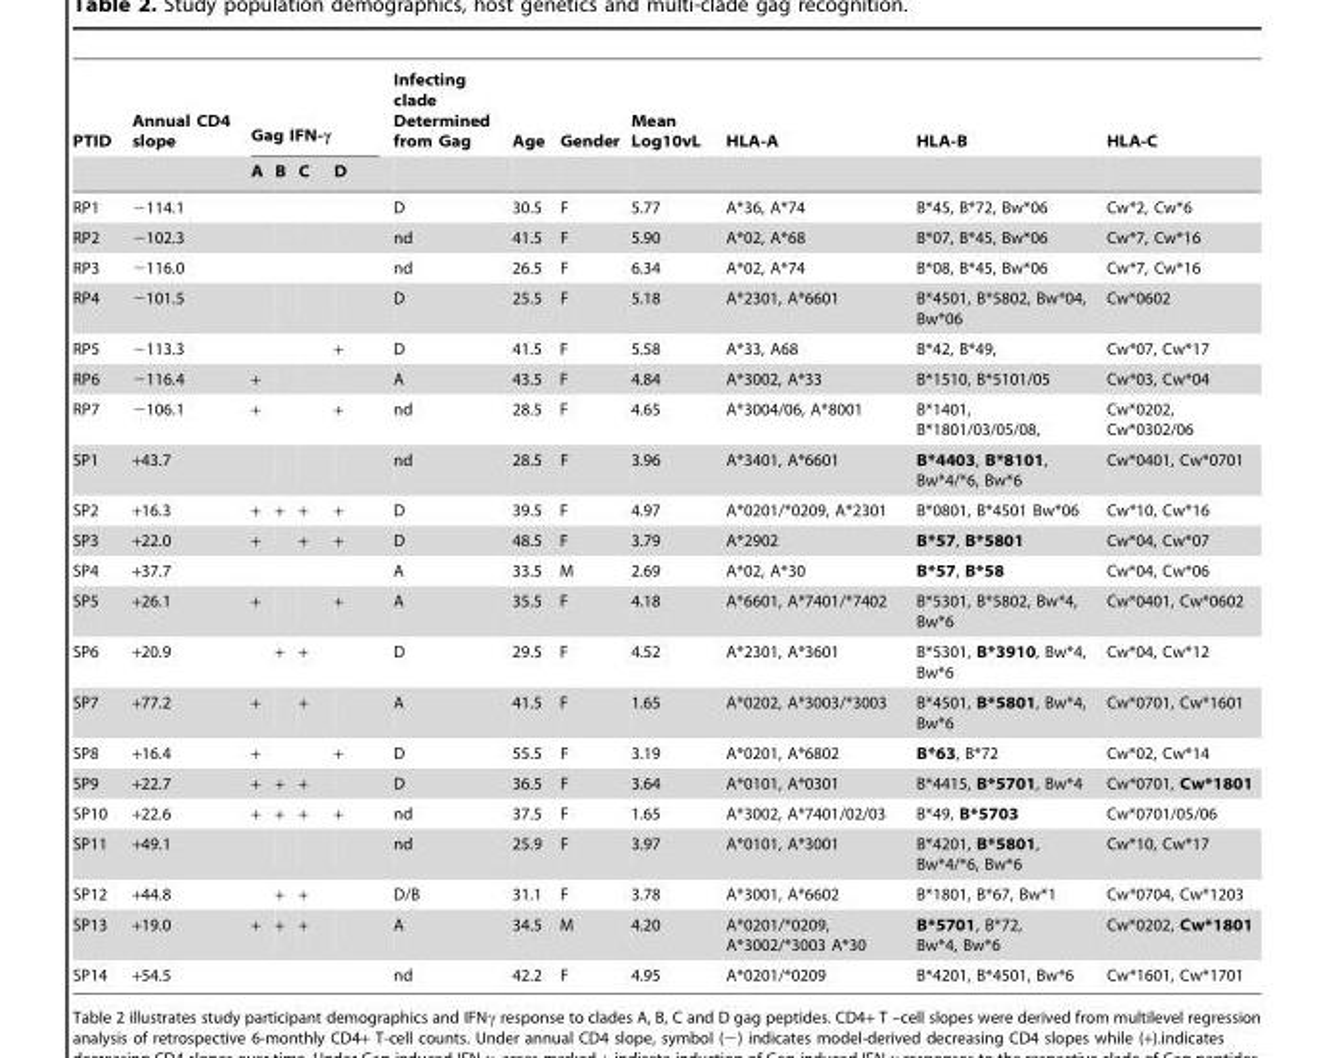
<table><thead><tr><td rowspan="2">PTID</td><td rowspan="2">Annual CD4 slope</td><td colspan="4">Gag IFN-γ</td><td rowspan="2">Infecting clade Determined from Gag</td><td rowspan="2">Age</td><td rowspan="2">Gender</td><td rowspan="2">Mean Log10vL</td><td rowspan="2">HLA-A</td><td rowspan="2">HLA-B</td><td rowspan="2">HLA-C</td></tr><tr><td>A</td><td>B</td><td>C</td><td>D</td></tr></thead><tbody><tr><td>RP1</td><td>−114.1</td><td></td><td></td><td></td><td></td><td>D</td><td>30.5</td><td>F</td><td>5.77</td><td>A*36, A*74</td><td>B*45, B*72, Bw*06</td><td>Cw*2, Cw*6</td></tr><tr><td>RP2</td><td>−102.3</td><td></td><td></td><td></td><td></td><td>nd</td><td>41.5</td><td>F</td><td>5.90</td><td>A*02, A*68</td><td>B*07, B*45, Bw*06</td><td>Cw*7, Cw*16</td></tr><tr><td>RP3</td><td>−116.0</td><td></td><td></td><td></td><td></td><td>nd</td><td>26.5</td><td>F</td><td>6.34</td><td>A*02, A*74</td><td>B*08, B*45, Bw*06</td><td>Cw*7, Cw*16</td></tr><tr><td>RP4</td><td>−101.5</td><td></td><td></td><td></td><td></td><td>D</td><td>25.5</td><td>F</td><td>5.18</td><td>A*2301, A*6601</td><td>B*4501, B*5802, Bw*04, Bw*06</td><td>Cw*0602</td></tr><tr><td>RP5</td><td>−113.3</td><td></td><td></td><td></td><td>+</td><td>D</td><td>41.5</td><td>F</td><td>5.58</td><td>A*33, A68</td><td>B*42, B*49,</td><td>Cw*07, Cw*17</td></tr><tr><td>RP6</td><td>−116.4</td><td>+</td><td></td><td></td><td></td><td>A</td><td>43.5</td><td>F</td><td>4.84</td><td>A*3002, A*33</td><td>B*1510, B*5101/05</td><td>Cw*03, Cw*04</td></tr><tr><td>RP7</td><td>−106.1</td><td>+</td><td></td><td></td><td>+</td><td>nd</td><td>28.5</td><td>F</td><td>4.65</td><td>A*3004/06, A*8001</td><td>B*1401, B*1801/03/05/08,</td><td>Cw*0202, Cw*0302/06</td></tr><tr><td>SP1</td><td>+43.7</td><td></td><td></td><td></td><td></td><td>nd</td><td>28.5</td><td>F</td><td>3.96</td><td>A*3401, A*6601</td><td>B*4403, B*8101, Bw*4/*6, Bw*6</td><td>Cw*0401, Cw*0701</td></tr><tr><td>SP2</td><td>+16.3</td><td>+</td><td>+</td><td>+</td><td>+</td><td>D</td><td>39.5</td><td>F</td><td>4.97</td><td>A*0201/*0209, A*2301</td><td>B*0801, B*4501 Bw*06</td><td>Cw*10, Cw*16</td></tr><tr><td>SP3</td><td>+22.0</td><td>+</td><td></td><td>+</td><td>+</td><td>D</td><td>48.5</td><td>F</td><td>3.79</td><td>A*2902</td><td>B*57, B*5801</td><td>Cw*04, Cw*07</td></tr><tr><td>SP4</td><td>+37.7</td><td></td><td></td><td></td><td></td><td>A</td><td>33.5</td><td>M</td><td>2.69</td><td>A*02, A*30</td><td>B*57, B*58</td><td>Cw*04, Cw*06</td></tr><tr><td>SP5</td><td>+26.1</td><td>+</td><td></td><td></td><td>+</td><td>A</td><td>35.5</td><td>F</td><td>4.18</td><td>A*6601, A*7401/*7402</td><td>B*5301, B*5802, Bw*4, Bw*6</td><td>Cw*0401, Cw*0602</td></tr><tr><td>SP6</td><td>+20.9</td><td></td><td>+</td><td>+</td><td></td><td>D</td><td>29.5</td><td>F</td><td>4.52</td><td>A*2301, A*3601</td><td>B*5301, B*3910, Bw*4, Bw*6</td><td>Cw*04, Cw*12</td></tr><tr><td>SP7</td><td>+77.2</td><td>+</td><td></td><td>+</td><td></td><td>A</td><td>41.5</td><td>F</td><td>1.65</td><td>A*0202, A*3003/*3003</td><td>B*4501, B*5801, Bw*4, Bw*6</td><td>Cw*0701, Cw*1601</td></tr><tr><td>SP8</td><td>+16.4</td><td>+</td><td></td><td></td><td>+</td><td>D</td><td>55.5</td><td>F</td><td>3.19</td><td>A*0201, A*6802</td><td>B*63, B*72</td><td>Cw*02, Cw*14</td></tr><tr><td>SP9</td><td>+22.7</td><td>+</td><td>+</td><td>+</td><td></td><td>D</td><td>36.5</td><td>F</td><td>3.64</td><td>A*0101, A*0301</td><td>B*4415, B*5701, Bw*4</td><td>Cw*0701, Cw*1801</td></tr><tr><td>SP10</td><td>+22.6</td><td>+</td><td>+</td><td>+</td><td>+</td><td>nd</td><td>37.5</td><td>F</td><td>1.65</td><td>A*3002, A*7401/02/03</td><td>B*49, B*5703</td><td>Cw*0701/05/06</td></tr><tr><td>SP11</td><td>+49.1</td><td></td><td></td><td></td><td></td><td>nd</td><td>25.9</td><td>F</td><td>3.97</td><td>A*0101, A*3001</td><td>B*4201, B*5801, Bw*4/*6, Bw*6</td><td>Cw*10, Cw*17</td></tr><tr><td>SP12</td><td>+44.8</td><td></td><td>+</td><td>+</td><td></td><td>D/B</td><td>31.1</td><td>F</td><td>3.78</td><td>A*3001, A*6602</td><td>B*1801, B*67, Bw*1</td><td>Cw*0704, Cw*1203</td></tr><tr><td>SP13</td><td>+19.0</td><td>+</td><td>+</td><td>+</td><td></td><td>A</td><td>34.5</td><td>M</td><td>4.20</td><td>A*0201/*0209, A*3002/*3003 A*30</td><td>B*5701, B*72, Bw*4, Bw*6</td><td>Cw*0202, Cw*1801</td></tr><tr><td>SP14</td><td>+54.5</td><td></td><td></td><td></td><td></td><td>nd</td><td>42.2</td><td>F</td><td>4.95</td><td>A*0201/*0209</td><td>B*4201, B*4501, Bw*6</td><td>Cw*1601, Cw*1701</td></tr></tbody></table>